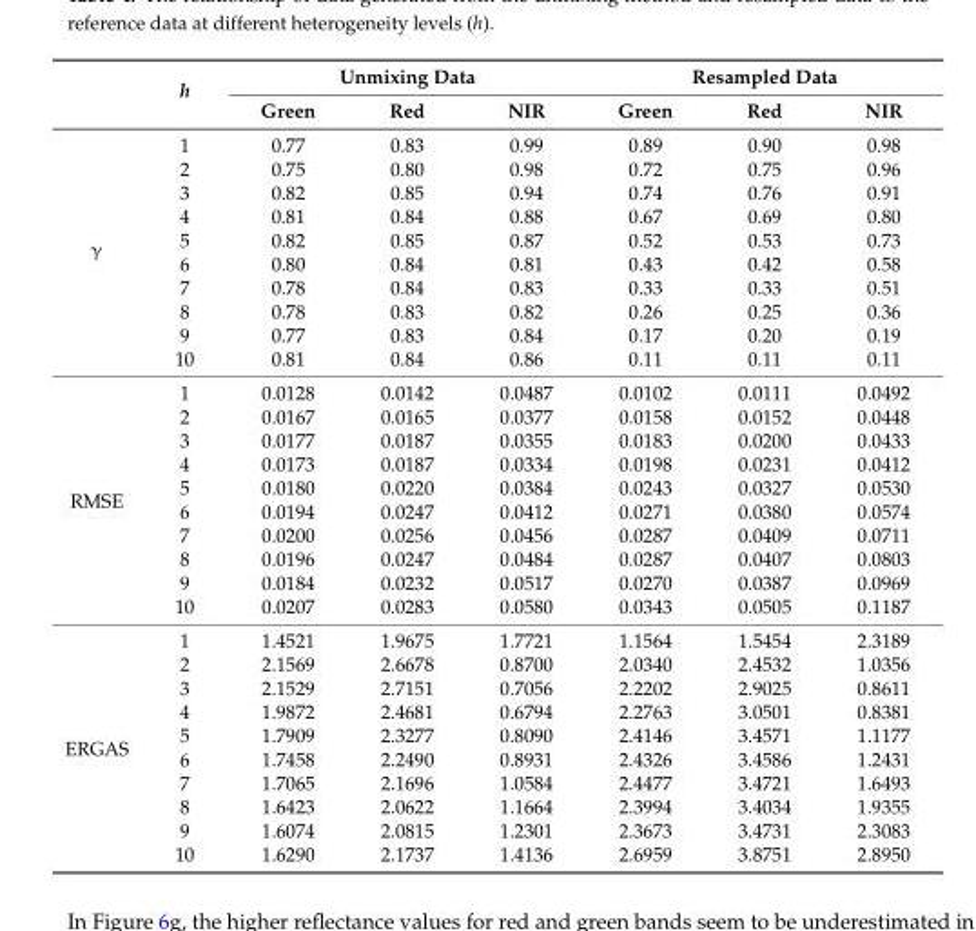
<table><thead><tr><td rowspan="2"></td><td rowspan="2">h</td><td colspan="3">Unmixing Data</td><td colspan="3">Resampled Data</td></tr><tr><td>Green</td><td>Red</td><td>NIR</td><td>Green</td><td>Red</td><td>NIR</td></tr></thead><tbody><tr><td rowspan="10">γ</td><td>1</td><td>0.77</td><td>0.83</td><td>0.99</td><td>0.89</td><td>0.90</td><td>0.98</td></tr><tr><td>2</td><td>0.75</td><td>0.80</td><td>0.98</td><td>0.72</td><td>0.75</td><td>0.96</td></tr><tr><td>3</td><td>0.82</td><td>0.85</td><td>0.94</td><td>0.74</td><td>0.76</td><td>0.91</td></tr><tr><td>4</td><td>0.81</td><td>0.84</td><td>0.88</td><td>0.67</td><td>0.69</td><td>0.80</td></tr><tr><td>5</td><td>0.82</td><td>0.85</td><td>0.87</td><td>0.52</td><td>0.53</td><td>0.73</td></tr><tr><td>6</td><td>0.80</td><td>0.84</td><td>0.81</td><td>0.43</td><td>0.42</td><td>0.58</td></tr><tr><td>7</td><td>0.78</td><td>0.84</td><td>0.83</td><td>0.33</td><td>0.33</td><td>0.51</td></tr><tr><td>8</td><td>0.78</td><td>0.83</td><td>0.82</td><td>0.26</td><td>0.25</td><td>0.36</td></tr><tr><td>9</td><td>0.77</td><td>0.83</td><td>0.84</td><td>0.17</td><td>0.20</td><td>0.19</td></tr><tr><td>10</td><td>0.81</td><td>0.84</td><td>0.86</td><td>0.11</td><td>0.11</td><td>0.11</td></tr><tr><td rowspan="10">RMSE</td><td>1</td><td>0.0128</td><td>0.0142</td><td>0.0487</td><td>0.0102</td><td>0.0111</td><td>0.0492</td></tr><tr><td>2</td><td>0.0167</td><td>0.0165</td><td>0.0377</td><td>0.0158</td><td>0.0152</td><td>0.0448</td></tr><tr><td>3</td><td>0.0177</td><td>0.0187</td><td>0.0355</td><td>0.0183</td><td>0.0200</td><td>0.0433</td></tr><tr><td>4</td><td>0.0173</td><td>0.0187</td><td>0.0334</td><td>0.0198</td><td>0.0231</td><td>0.0412</td></tr><tr><td>5</td><td>0.0180</td><td>0.0220</td><td>0.0384</td><td>0.0243</td><td>0.0327</td><td>0.0530</td></tr><tr><td>6</td><td>0.0194</td><td>0.0247</td><td>0.0412</td><td>0.0271</td><td>0.0380</td><td>0.0574</td></tr><tr><td>7</td><td>0.0200</td><td>0.0256</td><td>0.0456</td><td>0.0287</td><td>0.0409</td><td>0.0711</td></tr><tr><td>8</td><td>0.0196</td><td>0.0247</td><td>0.0484</td><td>0.0287</td><td>0.0407</td><td>0.0803</td></tr><tr><td>9</td><td>0.0184</td><td>0.0232</td><td>0.0517</td><td>0.0270</td><td>0.0387</td><td>0.0969</td></tr><tr><td>10</td><td>0.0207</td><td>0.0283</td><td>0.0580</td><td>0.0343</td><td>0.0505</td><td>0.1187</td></tr><tr><td rowspan="10">ERGAS</td><td>1</td><td>1.4521</td><td>1.9675</td><td>1.7721</td><td>1.1564</td><td>1.5454</td><td>2.3189</td></tr><tr><td>2</td><td>2.1569</td><td>2.6678</td><td>0.8700</td><td>2.0340</td><td>2.4532</td><td>1.0356</td></tr><tr><td>3</td><td>2.1529</td><td>2.7151</td><td>0.7056</td><td>2.2202</td><td>2.9025</td><td>0.8611</td></tr><tr><td>4</td><td>1.9872</td><td>2.4681</td><td>0.6794</td><td>2.2763</td><td>3.0501</td><td>0.8381</td></tr><tr><td>5</td><td>1.7909</td><td>2.3277</td><td>0.8090</td><td>2.4146</td><td>3.4571</td><td>1.1177</td></tr><tr><td>6</td><td>1.7458</td><td>2.2490</td><td>0.8931</td><td>2.4326</td><td>3.4586</td><td>1.2431</td></tr><tr><td>7</td><td>1.7065</td><td>2.1696</td><td>1.0584</td><td>2.4477</td><td>3.4721</td><td>1.6493</td></tr><tr><td>8</td><td>1.6423</td><td>2.0622</td><td>1.1664</td><td>2.3994</td><td>3.4034</td><td>1.9355</td></tr><tr><td>9</td><td>1.6074</td><td>2.0815</td><td>1.2301</td><td>2.3673</td><td>3.4731</td><td>2.3083</td></tr><tr><td>10</td><td>1.6290</td><td>2.1737</td><td>1.4136</td><td>2.6959</td><td>3.8751</td><td>2.8950</td></tr></tbody></table>